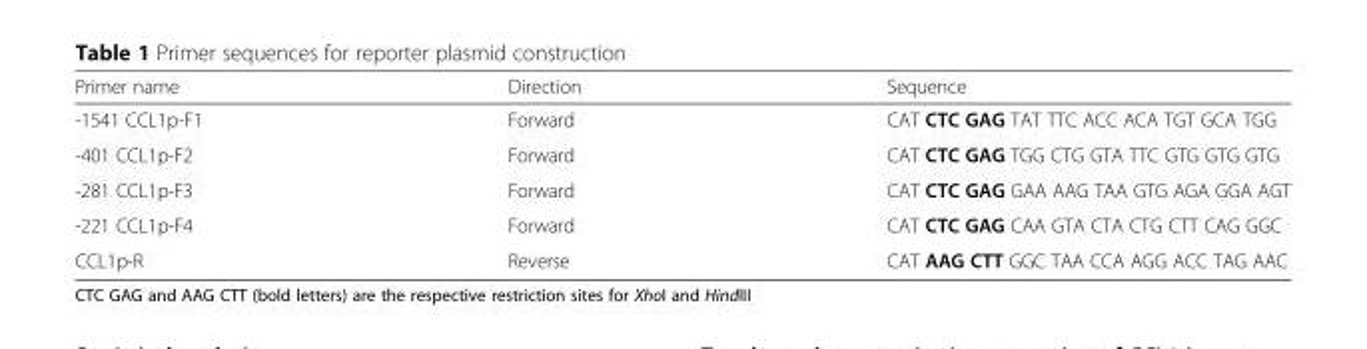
<table><thead><tr><td>Primer name</td><td>Direction</td><td>Sequence</td></tr></thead><tbody><tr><td>-1541 CCL1p-F1</td><td>Forward</td><td>CAT CTC GAG TAT TTC ACC ACA TGT GCA TGG</td></tr><tr><td>-401 CCL1p-F2</td><td>Forward</td><td>CAT CTC GAG TGG CTG GTA TTC GTG GTG GTG</td></tr><tr><td>-281 CCL1p-F3</td><td>Forward</td><td>CAT CTC GAG GAA AAG TAA GTG AGA GGA AGT</td></tr><tr><td>-221 CCL1p-F4</td><td>Forward</td><td>CAT CTC GAG CAA GTA CTA CTG CTT CAG GGC</td></tr><tr><td>CCL1p-R</td><td>Reverse</td><td>CAT AAG CTT GGC TAA CCA AGG ACC TAG AAC</td></tr></tbody></table>